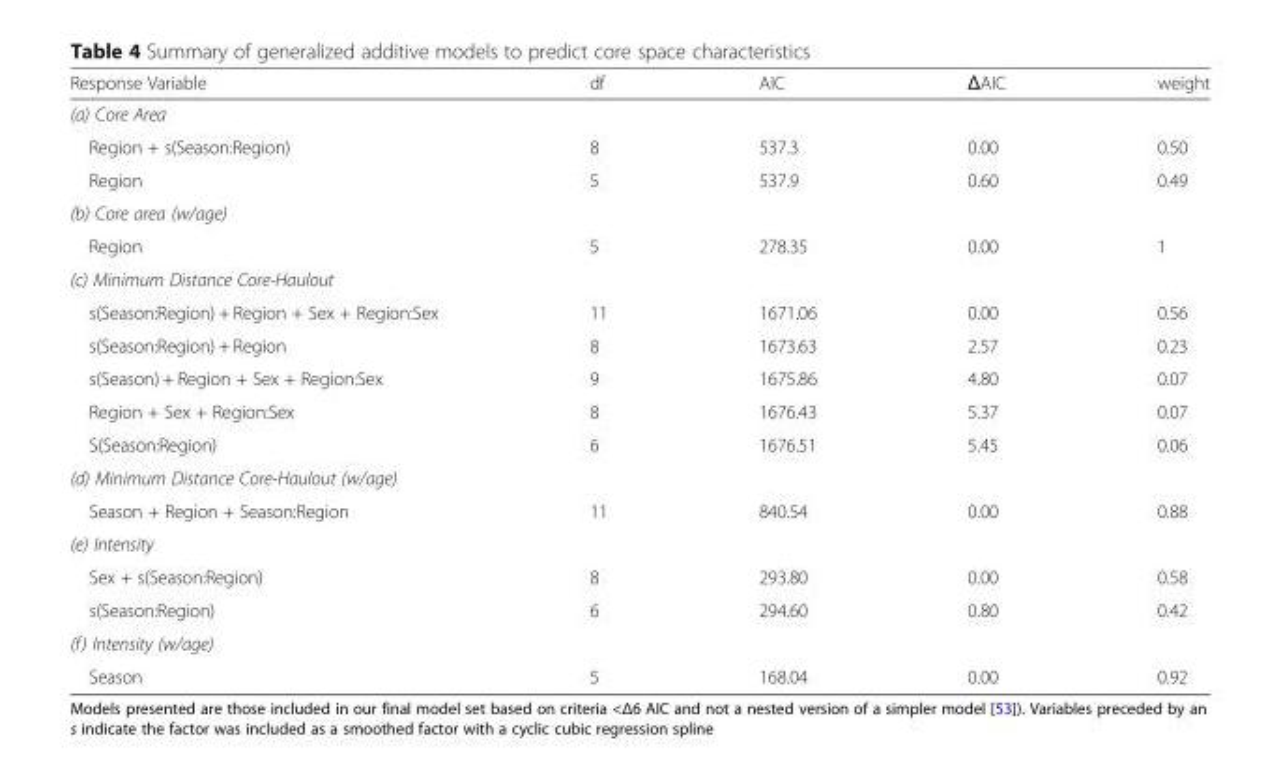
<table><thead><tr><td>Response Variable</td><td>df</td><td>AIC</td><td>ΔAIC</td><td>weight</td></tr></thead><tbody><tr><td colspan="5">(a) Core Area</td></tr><tr><td>Region + s(Season:Region)</td><td>8</td><td>537.3</td><td>0.00</td><td>0.50</td></tr><tr><td>Region</td><td>5</td><td>537.9</td><td>0.60</td><td>0.49</td></tr><tr><td colspan="5">(b) Core area (w/age)</td></tr><tr><td>Region</td><td>5</td><td>278.35</td><td>0.00</td><td>1</td></tr><tr><td colspan="5">(c) Minimum Distance Core-Haulout</td></tr><tr><td>s(Season:Region) + Region + Sex + Region:Sex</td><td>11</td><td>1671.06</td><td>0.00</td><td>0.56</td></tr><tr><td>s(Season:Region) + Region</td><td>8</td><td>1673.63</td><td>2.57</td><td>0.23</td></tr><tr><td>s(Season) + Region + Sex + Region:Sex</td><td>9</td><td>1675.86</td><td>4.80</td><td>0.07</td></tr><tr><td>Region + Sex + Region:Sex</td><td>8</td><td>1676.43</td><td>5.37</td><td>0.07</td></tr><tr><td>S(Season:Region)</td><td>6</td><td>1676.51</td><td>5.45</td><td>0.06</td></tr><tr><td colspan="5">(d) Minimum Distance Core-Haulout (w/age)</td></tr><tr><td>Season + Region + Season:Region</td><td>11</td><td>840.54</td><td>0.00</td><td>0.88</td></tr><tr><td colspan="5">(e) Intensity</td></tr><tr><td>Sex + s(Season:Region)</td><td>8</td><td>293.80</td><td>0.00</td><td>0.58</td></tr><tr><td>s(Season:Region)</td><td>6</td><td>294.60</td><td>0.80</td><td>0.42</td></tr><tr><td colspan="5">(f) Intensity (w/age)</td></tr><tr><td>Season</td><td>5</td><td>168.04</td><td>0.00</td><td>0.92</td></tr></tbody></table>